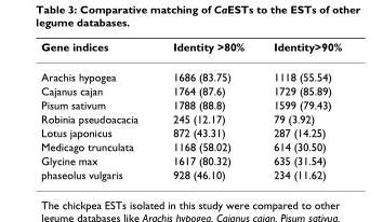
<table><thead><tr><td>Gene indices</td><td>Identity &gt;80%</td><td>Identity&gt;90%</td></tr></thead><tbody><tr><td>Arachis hypogea</td><td>1686 (83.75)</td><td>1118 (55.54)</td></tr><tr><td>Cajanus cajan</td><td>1764 (87.6)</td><td>1729 (85.89)</td></tr><tr><td>Pisum sativum</td><td>1788 (88.8)</td><td>1599 (79.43)</td></tr><tr><td>Robinia pseudoacacia</td><td>245 (12.17)</td><td>79 (3.92)</td></tr><tr><td>Lotus japonicus</td><td>872 (43.31)</td><td>287 (14.25)</td></tr><tr><td>Medicago trunculata</td><td>1168 (58.02)</td><td>614 (30.50)</td></tr><tr><td>Glycine max</td><td>1617 (80.32)</td><td>635 (31.54)</td></tr><tr><td>phaseolus vulgaris</td><td>928 (46.10)</td><td>234 (11.62)</td></tr></tbody></table>